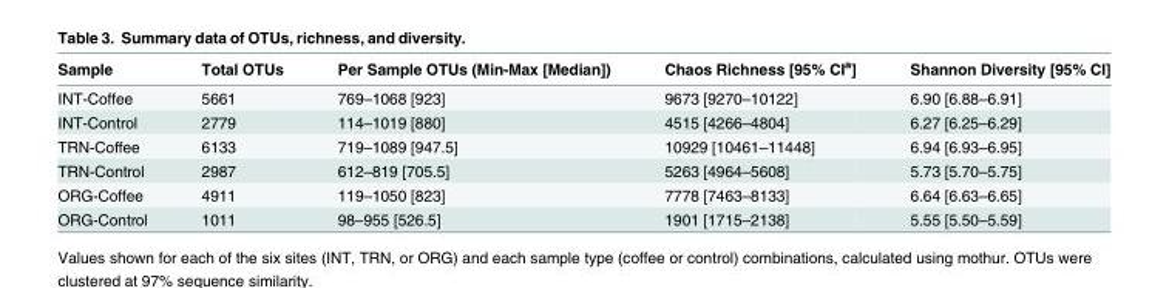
<table><thead><tr><td>Sample</td><td>Total OTUs</td><td>Per Sample OTUs (Min-Max [Median])</td><td>Chaos Richness [95% CI<sup>a</sup>]</td><td>Shannon Diversity [95% CI]</td></tr></thead><tbody><tr><td>INT-Coffee</td><td>5661</td><td>769–1068 [923]</td><td>9673 [9270–10122]</td><td>6.90 [6.88–6.91]</td></tr><tr><td>INT-Control</td><td>2779</td><td>114–1019 [880]</td><td>4515 [4266–4804]</td><td>6.27 [6.25–6.29]</td></tr><tr><td>TRN-Coffee</td><td>6133</td><td>719–1089 [947.5]</td><td>10929 [10461–11448]</td><td>6.94 [6.93–6.95]</td></tr><tr><td>TRN-Control</td><td>2987</td><td>612–819 [705.5]</td><td>5263 [4964–5608]</td><td>5.73 [5.70–5.75]</td></tr><tr><td>ORG-Coffee</td><td>4911</td><td>119–1050 [823]</td><td>7778 [7463–8133]</td><td>6.64 [6.63–6.65]</td></tr><tr><td>ORG-Control</td><td>1011</td><td>98–955 [526.5]</td><td>1901 [1715–2138]</td><td>5.55 [5.50–5.59]</td></tr></tbody></table>